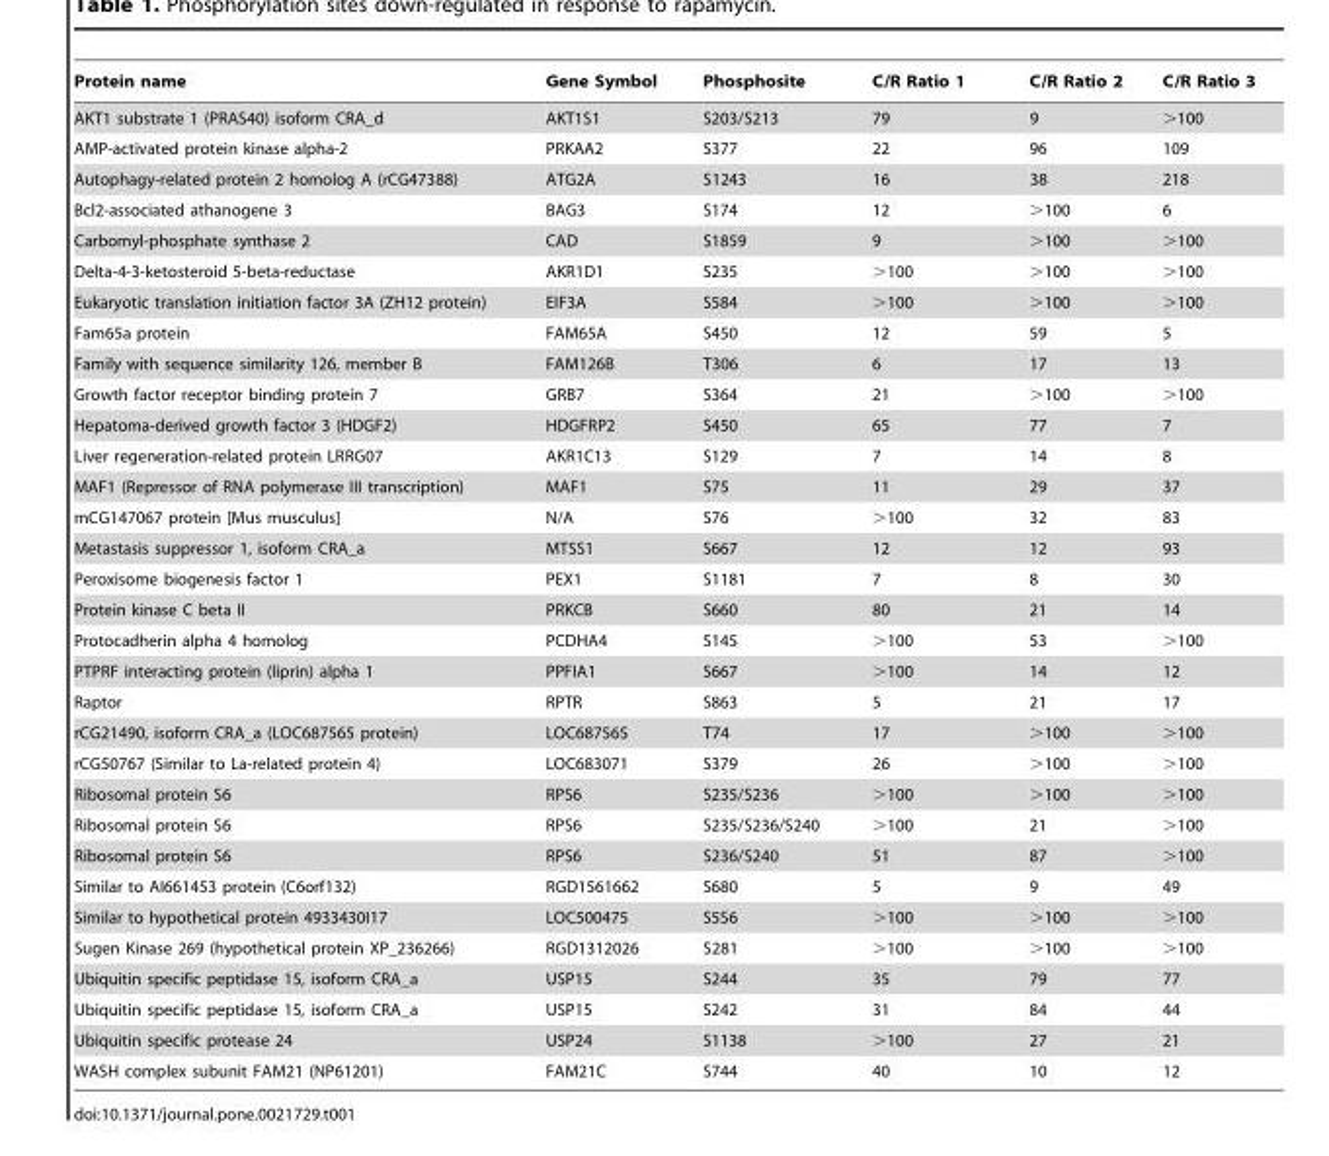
<table><thead><tr><td>Protein name</td><td>Gene Symbol</td><td>Phosphosite</td><td>C/R Ratio 1</td><td>C/R Ratio 2</td><td>C/R Ratio 3</td></tr></thead><tbody><tr><td>AKT1 substrate 1 (PRAS40) isoform CRA_d</td><td>AKT1S1</td><td>S203/S213</td><td>79</td><td>9</td><td>&gt;100</td></tr><tr><td>AMP-activated protein kinase alpha-2</td><td>PRKAA2</td><td>S377</td><td>22</td><td>96</td><td>109</td></tr><tr><td>Autophagy-related protein 2 homolog A (rCG47388)</td><td>ATG2A</td><td>S1243</td><td>16</td><td>38</td><td>218</td></tr><tr><td>Bcl2-associated athanogene 3</td><td>BAG3</td><td>S174</td><td>12</td><td>&gt;100</td><td>6</td></tr><tr><td>Carbomyl-phosphate synthase 2</td><td>CAD</td><td>S1859</td><td>9</td><td>&gt;100</td><td>&gt;100</td></tr><tr><td>Delta-4-3-ketosteroid 5-beta-reductase</td><td>AKR1D1</td><td>S235</td><td>&gt;100</td><td>&gt;100</td><td>&gt;100</td></tr><tr><td>Eukaryotic translation initiation factor 3A (ZH12 protein)</td><td>EIF3A</td><td>S584</td><td>&gt;100</td><td>&gt;100</td><td>&gt;100</td></tr><tr><td>Fam65a protein</td><td>FAM65A</td><td>S450</td><td>12</td><td>59</td><td>5</td></tr><tr><td>Family with sequence similarity 126, member B</td><td>FAM126B</td><td>T306</td><td>6</td><td>17</td><td>13</td></tr><tr><td>Growth factor receptor binding protein 7</td><td>GRB7</td><td>S364</td><td>21</td><td>&gt;100</td><td>&gt;100</td></tr><tr><td>Hepatoma-derived growth factor 3 (HDGF2)</td><td>HDGFRP2</td><td>S450</td><td>65</td><td>77</td><td>7</td></tr><tr><td>Liver regeneration-related protein LRRG07</td><td>AKR1C13</td><td>S129</td><td>7</td><td>14</td><td>8</td></tr><tr><td>MAF1 (Repressor of RNA polymerase III transcription)</td><td>MAF1</td><td>S75</td><td>11</td><td>29</td><td>37</td></tr><tr><td>mCG147067 protein [Mus musculus]</td><td>N/A</td><td>S76</td><td>&gt;100</td><td>32</td><td>83</td></tr><tr><td>Metastasis suppressor 1, isoform CRA_a</td><td>MTSS1</td><td>S667</td><td>12</td><td>12</td><td>93</td></tr><tr><td>Peroxisome biogenesis factor 1</td><td>PEX1</td><td>S1181</td><td>7</td><td>8</td><td>30</td></tr><tr><td>Protein kinase C beta II</td><td>PRKCB</td><td>S660</td><td>80</td><td>21</td><td>14</td></tr><tr><td>Protocadherin alpha 4 homolog</td><td>PCDHA4</td><td>S145</td><td>&gt;100</td><td>53</td><td>&gt;100</td></tr><tr><td>PTPRF interacting protein (liprin) alpha 1</td><td>PPFIA1</td><td>S667</td><td>&gt;100</td><td>14</td><td>12</td></tr><tr><td>Raptor</td><td>RPTR</td><td>S863</td><td>5</td><td>21</td><td>17</td></tr><tr><td>rCG21490, isoform CRA_a (LOC687565 protein)</td><td>LOC687565</td><td>T74</td><td>17</td><td>&gt;100</td><td>&gt;100</td></tr><tr><td>rCG50767 (Similar to La-related protein 4)</td><td>LOC683071</td><td>S379</td><td>26</td><td>&gt;100</td><td>&gt;100</td></tr><tr><td>Ribosomal protein S6</td><td>RPS6</td><td>S235/S236</td><td>&gt;100</td><td>&gt;100</td><td>&gt;100</td></tr><tr><td>Ribosomal protein S6</td><td>RPS6</td><td>S235/S236/S240</td><td>&gt;100</td><td>21</td><td>&gt;100</td></tr><tr><td>Ribosomal protein S6</td><td>RPS6</td><td>S236/S240</td><td>51</td><td>87</td><td>&gt;100</td></tr><tr><td>Similar to AI661453 protein (C6orf132)</td><td>RGD1561662</td><td>S680</td><td>5</td><td>9</td><td>49</td></tr><tr><td>Similar to hypothetical protein 4933430I17</td><td>LOC500475</td><td>S5S6</td><td>&gt;100</td><td>&gt;100</td><td>&gt;100</td></tr><tr><td>Sugen Kinase 269 (hypothetical protein XP_236266)</td><td>RGD1312026</td><td>S281</td><td>&gt;100</td><td>&gt;100</td><td>&gt;100</td></tr><tr><td>Ubiquitin specific peptidase 15, isoform CRA_a</td><td>USP15</td><td>S244</td><td>35</td><td>79</td><td>77</td></tr><tr><td>Ubiquitin specific peptidase 15, isoform CRA_a</td><td>USP15</td><td>S242</td><td>31</td><td>84</td><td>44</td></tr><tr><td>Ubiquitin specific protease 24</td><td>USP24</td><td>S1138</td><td>&gt;100</td><td>27</td><td>21</td></tr><tr><td>WASH complex subunit FAM21 (NP61201)</td><td>FAM21C</td><td>S744</td><td>40</td><td>10</td><td>12</td></tr></tbody></table>